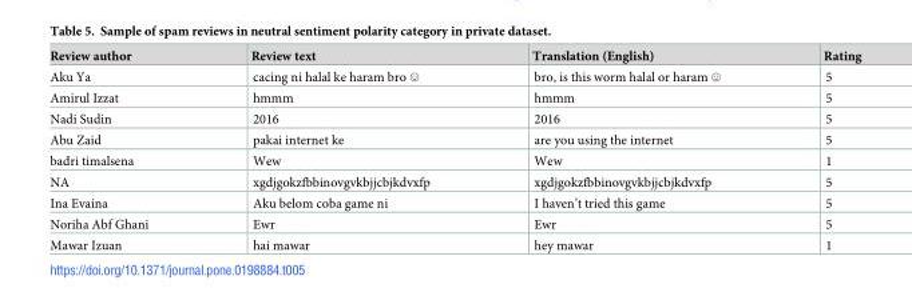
<table><thead><tr><td>Review author</td><td>Review text</td><td>Translation (English)</td><td>Rating</td></tr></thead><tbody><tr><td>Aku Ya</td><td>cacing ni halal ke haram bro ☺</td><td>bro, is this worm halal or haram ☺</td><td>5</td></tr><tr><td>Amirul Izzat</td><td>hmmm</td><td>hmmm</td><td>5</td></tr><tr><td>Nadi Sudin</td><td>2016</td><td>2016</td><td>5</td></tr><tr><td>Abu Zaid</td><td>pakai internet ke</td><td>are you using the internet</td><td>5</td></tr><tr><td>badri timalsena</td><td>Wew</td><td>Wew</td><td>1</td></tr><tr><td>NA</td><td>xgdjgokzfbbinovgvkbjjcbjkdvxfp</td><td>xgdjgokzfbbinovgvkbjjcbjkdvxfp</td><td>5</td></tr><tr><td>Ina Evaina</td><td>Aku belom coba game ni</td><td>I haven’t tried this game</td><td>5</td></tr><tr><td>Noriha Abf Ghani</td><td>Ewr</td><td>Ewr</td><td>5</td></tr><tr><td>Mawar Izuan</td><td>hai mawar</td><td>hey mawar</td><td>1</td></tr></tbody></table>